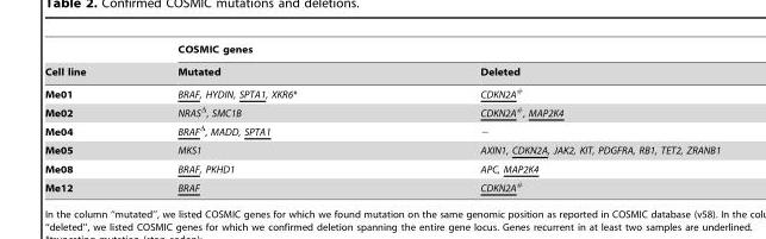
<table><thead><tr><td rowspan="2">Cell line</td><td colspan="2">COSMIC genes</td></tr><tr><td>Mutated</td><td>Deleted</td></tr></thead><tbody><tr><td>Me01</td><td>BRAF, HYDIN, SPTA1, XKR6*</td><td>CDKN2A#</td></tr><tr><td>Me02</td><td>NRASΔ, SMC1B</td><td>CDKN2A#, MAP2K4</td></tr><tr><td>Me04</td><td>BRAFΔ, MADD, SPTA1</td><td>−</td></tr><tr><td>Me05</td><td>MKS1</td><td>AXIN1, CDKN2A, JAK2, KIT, PDGFRA, RB1, TET2, ZRANB1</td></tr><tr><td>Me08</td><td>BRAF, PKHD1</td><td>APC, MAP2K4</td></tr><tr><td>Me12</td><td>BRAF</td><td>CDKN2A#</td></tr></tbody></table>